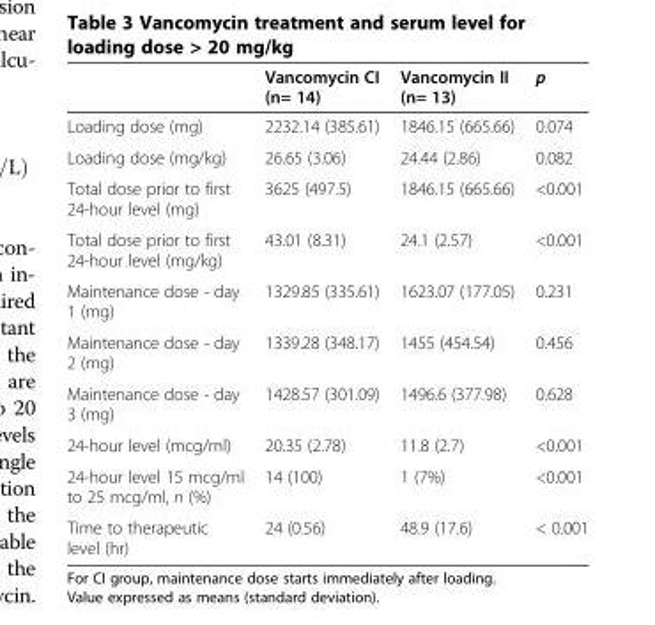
<table><thead><tr><td></td><td>Vancomycin CI (n= 14)</td><td>Vancomycin II (n= 13)</td><td>p</td></tr></thead><tbody><tr><td>Loading dose (mg)</td><td>2232.14 (385.61)</td><td>1846.15 (665.66)</td><td>0.074</td></tr><tr><td>Loading dose (mg/kg)</td><td>26.65 (3.06)</td><td>24.44 (2.86)</td><td>0.082</td></tr><tr><td>Total dose prior to first 24-hour level (mg)</td><td>3625 (497.5)</td><td>1846.15 (665.66)</td><td>&lt;0.001</td></tr><tr><td>Total dose prior to first 24-hour level (mg/kg)</td><td>43.01 (8.31)</td><td>24.1 (2.57)</td><td>&lt;0.001</td></tr><tr><td>Maintenance dose - day 1 (mg)</td><td>1329.85 (335.61)</td><td>1623.07 (177.05)</td><td>0.231</td></tr><tr><td>Maintenance dose - day 2 (mg)</td><td>1339.28 (348.17)</td><td>1455 (454.54)</td><td>0.456</td></tr><tr><td>Maintenance dose - day 3 (mg)</td><td>1428.57 (301.09)</td><td>1496.6 (377.98)</td><td>0.628</td></tr><tr><td>24-hour level (mcg/ml)</td><td>20.35 (2.78)</td><td>11.8 (2.7)</td><td>&lt;0.001</td></tr><tr><td>24-hour level 15 mcg/ml to 25 mcg/ml, n (%)</td><td>14 (100)</td><td>1 (7%)</td><td>&lt;0.001</td></tr><tr><td>Time to therapeutic level (hr)</td><td>24 (0.56)</td><td>48.9 (17.6)</td><td>&lt; 0.001</td></tr></tbody></table>